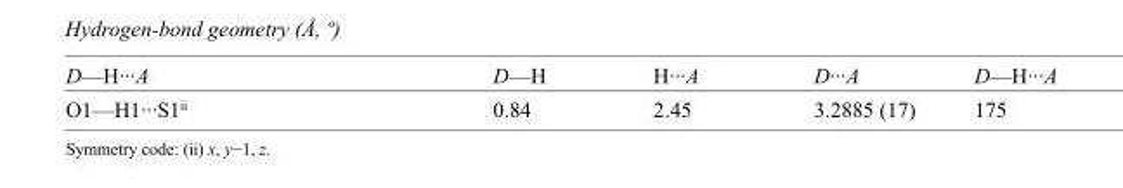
<table><tbody><tr><td>D—H···A</td><td>D—H</td><td>H···A</td><td>D···A</td><td>D—H···A</td></tr><tr><td>O1—H1···S1<sup>ii</sup></td><td>0.84</td><td>2.45</td><td>3.2885 (17)</td><td>175</td></tr></tbody></table>